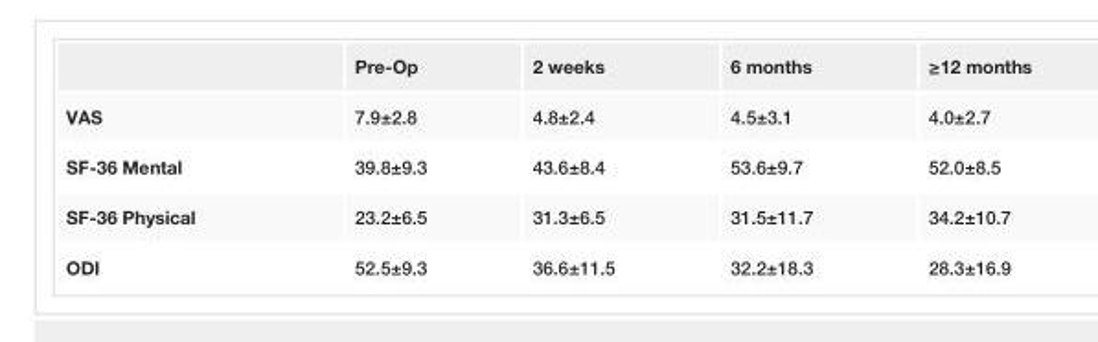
<table><thead><tr><td></td><td>Pre-Op</td><td>2 weeks</td><td>6 months</td><td>≥12 months</td></tr></thead><tbody><tr><td>VAS</td><td>7.9±2.8</td><td>4.8±2.4</td><td>4.5±3.1</td><td>4.0±2.7</td></tr><tr><td>SF-36 Mental</td><td>39.8±9.3</td><td>43.6±8.4</td><td>53.6±9.7</td><td>52.0±8.5</td></tr><tr><td>SF-36 Physical</td><td>23.2±6.5</td><td>31.3±6.5</td><td>31.5±11.7</td><td>34.2±10.7</td></tr><tr><td>ODI</td><td>52.5±9.3</td><td>36.6±11.5</td><td>32.2±18.3</td><td>28.3±16.9</td></tr></tbody></table>